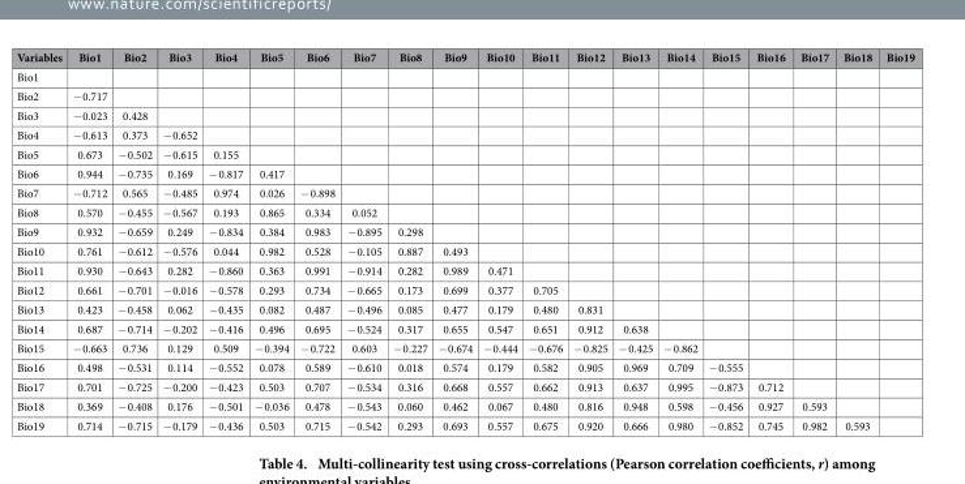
<table><thead><tr><td>Variables</td><td>Bio1</td><td>Bio2</td><td>Bio3</td><td>Bio4</td><td>Bio5</td><td>Bio6</td><td>Bio7</td><td>Bio8</td><td>Bio9</td><td>Bio10</td><td>Bio11</td><td>Bio12</td><td>Bio13</td><td>Bio14</td><td>Bio15</td><td>Bio16</td><td>Bio17</td><td>Bio18</td><td>Bio19</td></tr></thead><tbody><tr><td colspan="20">Bio1</td></tr><tr><td>Bio2</td><td>− 0.717</td><td></td><td></td><td></td><td></td><td></td><td></td><td></td><td></td><td></td><td></td><td></td><td></td><td></td><td></td><td></td><td></td><td></td><td></td></tr><tr><td>Bio3</td><td>− 0.023</td><td>0.428</td><td></td><td></td><td></td><td></td><td></td><td></td><td></td><td></td><td></td><td></td><td></td><td></td><td></td><td></td><td></td><td></td><td></td></tr><tr><td>Bio4</td><td>− 0.613</td><td>0.373</td><td>− 0.652</td><td></td><td></td><td></td><td></td><td></td><td></td><td></td><td></td><td></td><td></td><td></td><td></td><td></td><td></td><td></td><td></td></tr><tr><td>Bio5</td><td>0.673</td><td>− 0.502</td><td>− 0.615</td><td>0.155</td><td></td><td></td><td></td><td></td><td></td><td></td><td></td><td></td><td></td><td></td><td></td><td></td><td></td><td></td><td></td></tr><tr><td>Bio6</td><td>0.944</td><td>− 0.735</td><td>0.169</td><td>− 0.817</td><td>0.417</td><td></td><td></td><td></td><td></td><td></td><td></td><td></td><td></td><td></td><td></td><td></td><td></td><td></td><td></td></tr><tr><td>Bio7</td><td>− 0.712</td><td>0.565</td><td>− 0.485</td><td>0.974</td><td>0.026</td><td>− 0.898</td><td></td><td></td><td></td><td></td><td></td><td></td><td></td><td></td><td></td><td></td><td></td><td></td><td></td></tr><tr><td>Bio8</td><td>0.570</td><td>− 0.455</td><td>− 0.567</td><td>0.193</td><td>0.865</td><td>0.334</td><td>0.052</td><td></td><td></td><td></td><td></td><td></td><td></td><td></td><td></td><td></td><td></td><td></td><td></td></tr><tr><td>Bio9</td><td>0.932</td><td>− 0.659</td><td>0.249</td><td>− 0.834</td><td>0.384</td><td>0.983</td><td>− 0.895</td><td>0.298</td><td></td><td></td><td></td><td></td><td></td><td></td><td></td><td></td><td></td><td></td><td></td></tr><tr><td>Bio10</td><td>0.761</td><td>− 0.612</td><td>− 0.576</td><td>0.044</td><td>0.982</td><td>0.528</td><td>− 0.105</td><td>0.887</td><td>0.493</td><td></td><td></td><td></td><td></td><td></td><td></td><td></td><td></td><td></td><td></td></tr><tr><td>Bio11</td><td>0.930</td><td>− 0.643</td><td>0.282</td><td>− 0.860</td><td>0.363</td><td>0.991</td><td>− 0.914</td><td>0.282</td><td>0.989</td><td>0.471</td><td></td><td></td><td></td><td></td><td></td><td></td><td></td><td></td><td></td></tr><tr><td>Bio12</td><td>0.661</td><td>− 0.701</td><td>− 0.016</td><td>− 0.578</td><td>0.293</td><td>0.734</td><td>− 0.665</td><td>0.173</td><td>0.699</td><td>0.377</td><td>0.705</td><td></td><td></td><td></td><td></td><td></td><td></td><td></td><td></td></tr><tr><td>Bio13</td><td>0.423</td><td>− 0.458</td><td>0.062</td><td>− 0.435</td><td>0.082</td><td>0.487</td><td>− 0.496</td><td>0.085</td><td>0.477</td><td>0.179</td><td>0.480</td><td>0.831</td><td></td><td></td><td></td><td></td><td></td><td></td><td></td></tr><tr><td>Bio14</td><td>0.687</td><td>− 0.714</td><td>− 0.202</td><td>− 0.416</td><td>0.496</td><td>0.695</td><td>− 0.524</td><td>0.317</td><td>0.655</td><td>0.547</td><td>0.651</td><td>0.912</td><td>0.638</td><td></td><td></td><td></td><td></td><td></td><td></td></tr><tr><td>Bio15</td><td>− 0.663</td><td>0.736</td><td>0.129</td><td>0.509</td><td>− 0.394</td><td>− 0.722</td><td>0.603</td><td>− 0.227</td><td>− 0.674</td><td>− 0.444</td><td>− 0.676</td><td>− 0.825</td><td>− 0.425</td><td>− 0.862</td><td></td><td></td><td></td><td></td><td></td></tr><tr><td>Bio16</td><td>0.498</td><td>− 0.531</td><td>0.114</td><td>− 0.552</td><td>0.078</td><td>0.589</td><td>− 0.610</td><td>0.018</td><td>0.574</td><td>0.179</td><td>0.582</td><td>0.905</td><td>0.969</td><td>0.709</td><td>− 0.555</td><td></td><td></td><td></td><td></td></tr><tr><td>Bio17</td><td>0.701</td><td>− 0.725</td><td>− 0.200</td><td>− 0.423</td><td>0.503</td><td>0.707</td><td>− 0.534</td><td>0.316</td><td>0.668</td><td>0.557</td><td>0.662</td><td>0.913</td><td>0.637</td><td>0.995</td><td>− 0.873</td><td>0.712</td><td></td><td></td><td></td></tr><tr><td>Bio18</td><td>0.369</td><td>− 0.408</td><td>0.176</td><td>− 0.501</td><td>− 0.036</td><td>0.478</td><td>− 0.543</td><td>0.060</td><td>0.462</td><td>0.067</td><td>0.480</td><td>0.816</td><td>0.948</td><td>0.598</td><td>− 0.456</td><td>0.927</td><td>0.593</td><td></td><td></td></tr><tr><td>Bio19</td><td>0.714</td><td>− 0.715</td><td>− 0.179</td><td>− 0.436</td><td>0.503</td><td>0.715</td><td>− 0.542</td><td>0.293</td><td>0.693</td><td>0.557</td><td>0.675</td><td>0.920</td><td>0.666</td><td>0.980</td><td>− 0.852</td><td>0.745</td><td>0.982</td><td>0.593</td><td></td></tr></tbody></table>